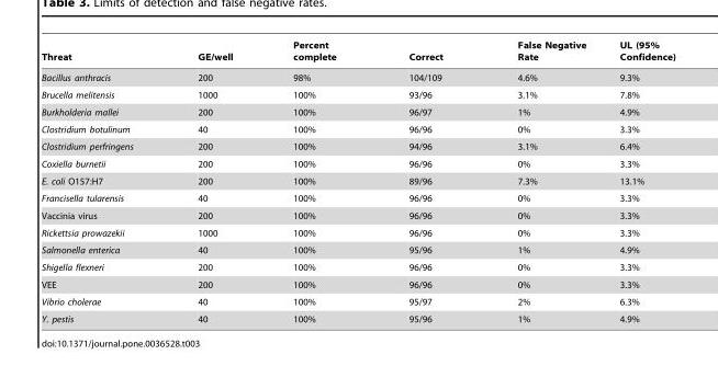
<table><thead><tr><td>Threat</td><td>GE/well</td><td>Percent complete</td><td>Correct</td><td>False Negative Rate</td><td>UL (95% Confidence)</td></tr></thead><tbody><tr><td>Bacillus anthracis</td><td>200</td><td>98%</td><td>104/109</td><td>4.6%</td><td>9.3%</td></tr><tr><td>Brucella melitensis</td><td>1000</td><td>100%</td><td>93/96</td><td>3.1%</td><td>7.8%</td></tr><tr><td>Burkholderia mallei</td><td>200</td><td>100%</td><td>96/97</td><td>1%</td><td>4.9%</td></tr><tr><td>Clostridium botulinum</td><td>40</td><td>100%</td><td>96/96</td><td>0%</td><td>3.3%</td></tr><tr><td>Clostridium perfringens</td><td>200</td><td>100%</td><td>94/96</td><td>3.1%</td><td>6.4%</td></tr><tr><td>Coxiella burnetii</td><td>200</td><td>100%</td><td>96/96</td><td>0%</td><td>3.3%</td></tr><tr><td>E. coli O157:H7</td><td>200</td><td>100%</td><td>89/96</td><td>7.3%</td><td>13.1%</td></tr><tr><td>Francisella tularensis</td><td>40</td><td>100%</td><td>96/96</td><td>0%</td><td>3.3%</td></tr><tr><td>Vaccinia virus</td><td>200</td><td>100%</td><td>96/96</td><td>0%</td><td>3.3%</td></tr><tr><td>Rickettsia prowazekii</td><td>1000</td><td>100%</td><td>96/96</td><td>0%</td><td>3.3%</td></tr><tr><td>Salmonella enterica</td><td>40</td><td>100%</td><td>95/96</td><td>1%</td><td>4.9%</td></tr><tr><td>Shigella flexneri</td><td>200</td><td>100%</td><td>96/96</td><td>0%</td><td>3.3%</td></tr><tr><td>VEE</td><td>200</td><td>100%</td><td>96/96</td><td>0%</td><td>3.3%</td></tr><tr><td>Vibrio cholerae</td><td>40</td><td>100%</td><td>95/97</td><td>2%</td><td>6.3%</td></tr><tr><td>Y. pestis</td><td>40</td><td>100%</td><td>95/96</td><td>1%</td><td>4.9%</td></tr></tbody></table>